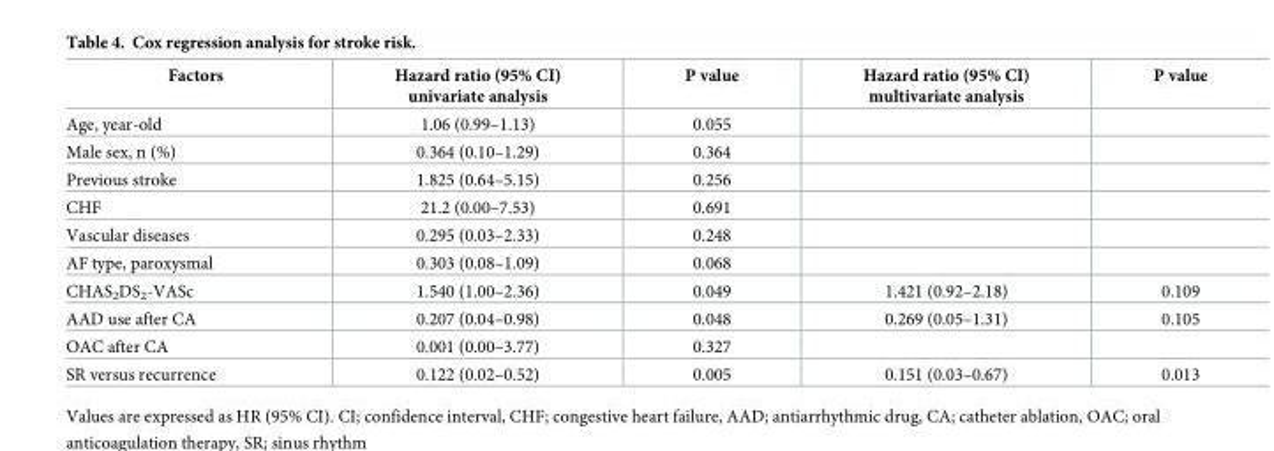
<table><thead><tr><td>Factors</td><td>Hazard ratio (95% CI) univariate analysis</td><td>P value</td><td>Hazard ratio (95% CI) multivariate analysis</td><td>P value</td></tr></thead><tbody><tr><td>Age, year-old</td><td>1.06 (0.99–1.13)</td><td>0.055</td><td></td><td></td></tr><tr><td>Male sex, n (%)</td><td>0.364 (0.10–1.29)</td><td>0.364</td><td></td><td></td></tr><tr><td>Previous stroke</td><td>1.825 (0.64–5.15)</td><td>0.256</td><td></td><td></td></tr><tr><td>CHF</td><td>21.2 (0.00–7.53)</td><td>0.691</td><td></td><td></td></tr><tr><td>Vascular diseases</td><td>0.295 (0.03–2.33)</td><td>0.248</td><td></td><td></td></tr><tr><td>AF type, paroxysmal</td><td>0.303 (0.08–1.09)</td><td>0.068</td><td></td><td></td></tr><tr><td>CHAS<sub>2</sub>DS<sub>2</sub>-VASc</td><td>1.540 (1.00–2.36)</td><td>0.049</td><td>1.421 (0.92–2.18)</td><td>0.109</td></tr><tr><td>AAD use after CA</td><td>0.207 (0.04–0.98)</td><td>0.048</td><td>0.269 (0.05–1.31)</td><td>0.105</td></tr><tr><td>OAC after CA</td><td>0.001 (0.00–3.77)</td><td>0.327</td><td></td><td></td></tr><tr><td>SR versus recurrence</td><td>0.122 (0.02–0.52)</td><td>0.005</td><td>0.151 (0.03–0.67)</td><td>0.013</td></tr></tbody></table>